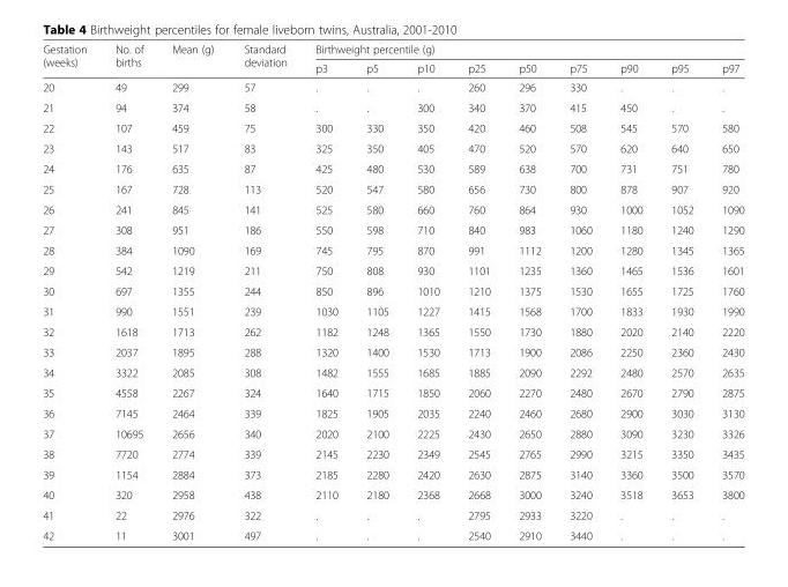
<table><thead><tr><td rowspan="2">Gestation (weeks)</td><td rowspan="2">No. of births</td><td rowspan="2">Mean (g)</td><td rowspan="2">Standard deviation</td><td colspan="9">Birthweight percentile (g)</td></tr><tr><td>p3</td><td>p5</td><td>p10</td><td>p25</td><td>p50</td><td>p75</td><td>p90</td><td>p95</td><td>p97</td></tr></thead><tbody><tr><td>20</td><td>49</td><td>299</td><td>57</td><td>.</td><td>.</td><td>.</td><td>260</td><td>296</td><td>330</td><td>.</td><td>.</td><td>.</td></tr><tr><td>21</td><td>94</td><td>374</td><td>58</td><td>.</td><td>.</td><td>300</td><td>340</td><td>370</td><td>415</td><td>450</td><td>.</td><td>.</td></tr><tr><td>22</td><td>107</td><td>459</td><td>75</td><td>300</td><td>330</td><td>350</td><td>420</td><td>460</td><td>508</td><td>545</td><td>570</td><td>580</td></tr><tr><td>23</td><td>143</td><td>517</td><td>83</td><td>325</td><td>350</td><td>405</td><td>470</td><td>520</td><td>570</td><td>620</td><td>640</td><td>650</td></tr><tr><td>24</td><td>176</td><td>635</td><td>87</td><td>425</td><td>480</td><td>530</td><td>589</td><td>638</td><td>700</td><td>731</td><td>751</td><td>780</td></tr><tr><td>25</td><td>167</td><td>728</td><td>113</td><td>520</td><td>547</td><td>580</td><td>656</td><td>730</td><td>800</td><td>878</td><td>907</td><td>920</td></tr><tr><td>26</td><td>241</td><td>845</td><td>141</td><td>525</td><td>580</td><td>660</td><td>760</td><td>864</td><td>930</td><td>1000</td><td>1052</td><td>1090</td></tr><tr><td>27</td><td>308</td><td>951</td><td>186</td><td>550</td><td>598</td><td>710</td><td>840</td><td>983</td><td>1060</td><td>1180</td><td>1240</td><td>1290</td></tr><tr><td>28</td><td>384</td><td>1090</td><td>169</td><td>745</td><td>795</td><td>870</td><td>991</td><td>1112</td><td>1200</td><td>1280</td><td>1345</td><td>1365</td></tr><tr><td>29</td><td>542</td><td>1219</td><td>211</td><td>750</td><td>808</td><td>930</td><td>1101</td><td>1235</td><td>1360</td><td>1465</td><td>1536</td><td>1601</td></tr><tr><td>30</td><td>697</td><td>1355</td><td>244</td><td>850</td><td>896</td><td>1010</td><td>1210</td><td>1375</td><td>1530</td><td>1655</td><td>1725</td><td>1760</td></tr><tr><td>31</td><td>990</td><td>1551</td><td>239</td><td>1030</td><td>1105</td><td>1227</td><td>1415</td><td>1568</td><td>1700</td><td>1833</td><td>1930</td><td>1990</td></tr><tr><td>32</td><td>1618</td><td>1713</td><td>262</td><td>1182</td><td>1248</td><td>1365</td><td>1550</td><td>1730</td><td>1880</td><td>2020</td><td>2140</td><td>2220</td></tr><tr><td>33</td><td>2037</td><td>1895</td><td>288</td><td>1320</td><td>1400</td><td>1530</td><td>1713</td><td>1900</td><td>2086</td><td>2250</td><td>2360</td><td>2430</td></tr><tr><td>34</td><td>3322</td><td>2085</td><td>308</td><td>1482</td><td>1555</td><td>1685</td><td>1885</td><td>2090</td><td>2292</td><td>2480</td><td>2570</td><td>2635</td></tr><tr><td>35</td><td>4558</td><td>2267</td><td>324</td><td>1640</td><td>1715</td><td>1850</td><td>2060</td><td>2270</td><td>2480</td><td>2670</td><td>2790</td><td>2875</td></tr><tr><td>36</td><td>7145</td><td>2464</td><td>339</td><td>1825</td><td>1905</td><td>2035</td><td>2240</td><td>2460</td><td>2680</td><td>2900</td><td>3030</td><td>3130</td></tr><tr><td>37</td><td>10695</td><td>2656</td><td>340</td><td>2020</td><td>2100</td><td>2225</td><td>2430</td><td>2650</td><td>2880</td><td>3090</td><td>3230</td><td>3326</td></tr><tr><td>38</td><td>7720</td><td>2774</td><td>339</td><td>2145</td><td>2230</td><td>2349</td><td>2545</td><td>2765</td><td>2990</td><td>3215</td><td>3350</td><td>3435</td></tr><tr><td>39</td><td>1154</td><td>2884</td><td>373</td><td>2185</td><td>2280</td><td>2420</td><td>2630</td><td>2875</td><td>3140</td><td>3360</td><td>3500</td><td>3570</td></tr><tr><td>40</td><td>320</td><td>2958</td><td>438</td><td>2110</td><td>2180</td><td>2368</td><td>2668</td><td>3000</td><td>3240</td><td>3518</td><td>3653</td><td>3800</td></tr><tr><td>41</td><td>22</td><td>2976</td><td>322</td><td>.</td><td>.</td><td>.</td><td>2795</td><td>2933</td><td>3220</td><td>.</td><td>.</td><td>.</td></tr><tr><td>42</td><td>11</td><td>3001</td><td>497</td><td>.</td><td>.</td><td>.</td><td>2540</td><td>2910</td><td>3440</td><td>.</td><td>.</td><td>.</td></tr></tbody></table>